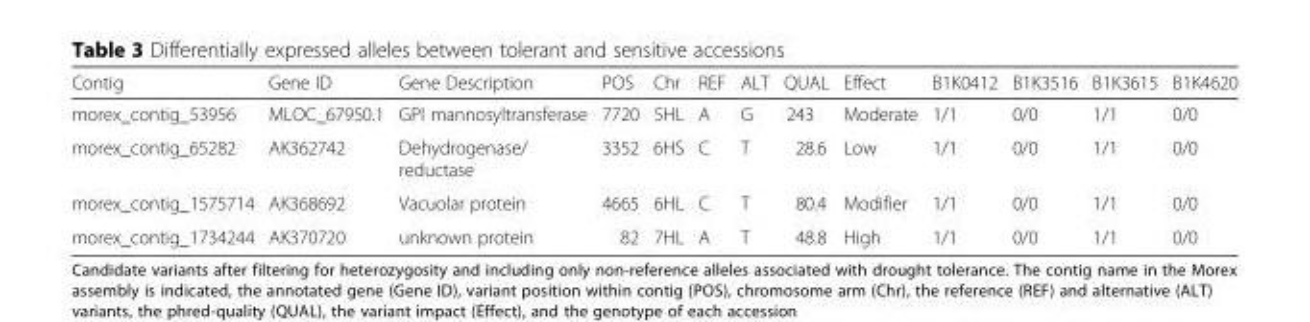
<table><thead><tr><td>Contig</td><td>Gene ID</td><td>Gene Description</td><td>POS</td><td>Chr</td><td>REF</td><td>ALT</td><td>QUAL</td><td>Effect</td><td>B1K0412</td><td>B1K3516</td><td>B1K3615</td><td>B1K4620</td></tr></thead><tbody><tr><td>morex_contig_53956</td><td>MLOC_67950.1</td><td>GPI mannosyltransferase</td><td>7720</td><td>5HL</td><td>A</td><td>G</td><td>243</td><td>Moderate</td><td>1/1</td><td>0/0</td><td>1/1</td><td>0/0</td></tr><tr><td>morex_contig_65282</td><td>AK362742</td><td>Dehydrogenase/ reductase</td><td>3352</td><td>6HS</td><td>C</td><td>T</td><td>28.6</td><td>Low</td><td>1/1</td><td>0/0</td><td>1/1</td><td>0/0</td></tr><tr><td>morex_contig_1575714</td><td>AK368692</td><td>Vacuolar protein</td><td>4665</td><td>6HL</td><td>C</td><td>T</td><td>80.4</td><td>Modifier</td><td>1/1</td><td>0/0</td><td>1/1</td><td>0/0</td></tr><tr><td>morex_contig_1734244</td><td>AK370720</td><td>unknown protein</td><td>82</td><td>7HL</td><td>A</td><td>T</td><td>48.8</td><td>High</td><td>1/1</td><td>0/0</td><td>1/1</td><td>0/0</td></tr></tbody></table>